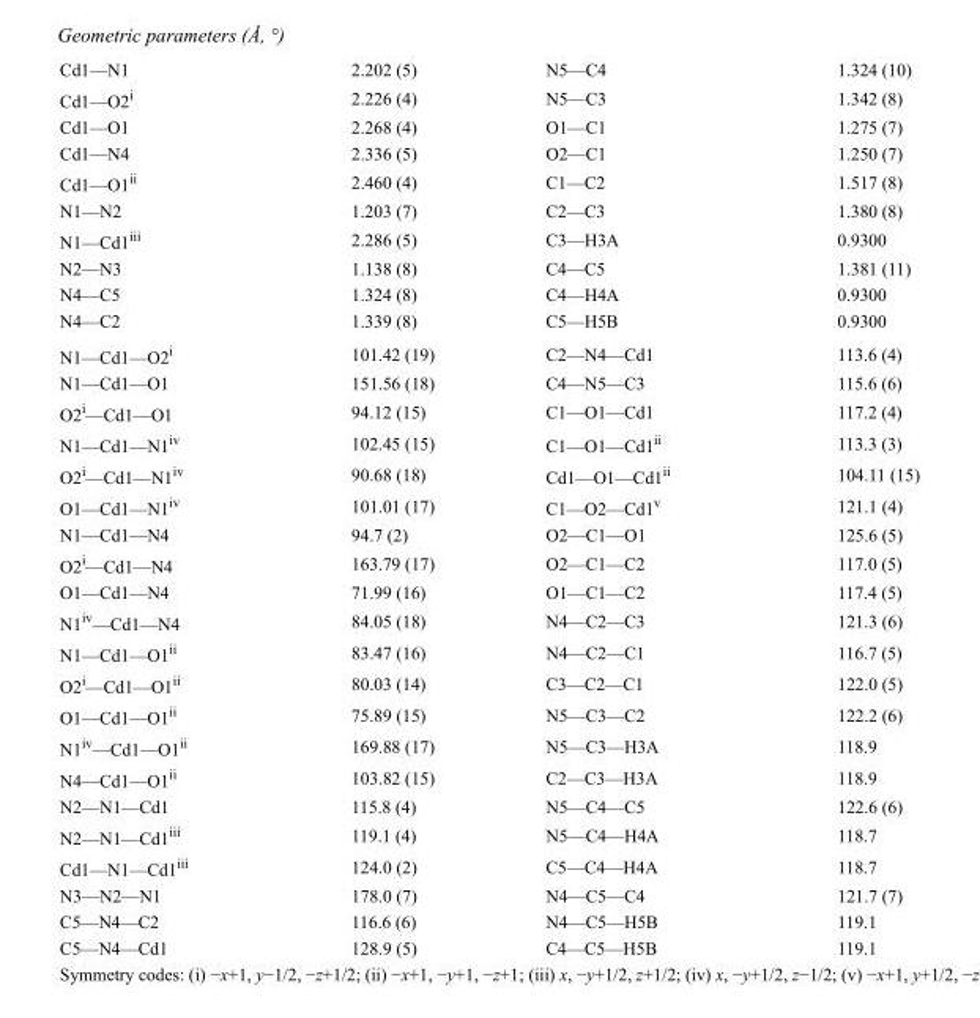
<table><tbody><tr><td>Cd1—N1</td><td>2.202 (5)</td><td>N5—C4</td><td>1.324 (10)</td></tr><tr><td>Cd1—O2<sup>i</sup></td><td>2.226 (4)</td><td>N5—C3</td><td>1.342 (8)</td></tr><tr><td>Cd1—O1</td><td>2.268 (4)</td><td>O1—C1</td><td>1.275 (7)</td></tr><tr><td>Cd1—N4</td><td>2.336 (5)</td><td>O2—C1</td><td>1.250 (7)</td></tr><tr><td>Cd1—O1<sup>ii</sup></td><td>2.460 (4)</td><td>C1—C2</td><td>1.517 (8)</td></tr><tr><td>N1—N2</td><td>1.203 (7)</td><td>C2—C3</td><td>1.380 (8)</td></tr><tr><td>N1—Cd1<sup>iii</sup></td><td>2.286 (5)</td><td>C3—H3A</td><td>0.9300</td></tr><tr><td>N2—N3</td><td>1.138 (8)</td><td>C4—C5</td><td>1.381 (11)</td></tr><tr><td>N4—C5</td><td>1.324 (8)</td><td>C4—H4A</td><td>0.9300</td></tr><tr><td>N4—C2</td><td>1.339 (8)</td><td>C5—H5B</td><td>0.9300</td></tr><tr><td>N1—Cd1—O2<sup>i</sup></td><td>101.42 (19)</td><td>C2—N4—Cd1</td><td>113.6 (4)</td></tr><tr><td>N1—Cd1—O1</td><td>151.56 (18)</td><td>C4—N5—C3</td><td>115.6 (6)</td></tr><tr><td>O2<sup>i</sup>—Cd1—O1</td><td>94.12 (15)</td><td>C1—O1—Cd1</td><td>117.2 (4)</td></tr><tr><td>N1—Cd1—N1<sup>iv</sup></td><td>102.45 (15)</td><td>C1—O1—Cd1<sup>ii</sup></td><td>113.3 (3)</td></tr><tr><td>O2<sup>i</sup>—Cd1—N1<sup>iv</sup></td><td>90.68 (18)</td><td>Cd1—O1—Cd1<sup>ii</sup></td><td>104.11 (15)</td></tr><tr><td>O1—Cd1—N1<sup>iv</sup></td><td>101.01 (17)</td><td>C1—O2—Cd1<sup>v</sup></td><td>121.1 (4)</td></tr><tr><td>N1—Cd1—N4</td><td>94.7 (2)</td><td>O2—C1—O1</td><td>125.6 (5)</td></tr><tr><td>O2<sup>i</sup>—Cd1—N4</td><td>163.79 (17)</td><td>O2—C1—C2</td><td>117.0 (5)</td></tr><tr><td>O1—Cd1—N4</td><td>71.99 (16)</td><td>O1—C1—C2</td><td>117.4 (5)</td></tr><tr><td>N1<sup>iv</sup>—Cd1—N4</td><td>84.05 (18)</td><td>N4—C2—C3</td><td>121.3 (6)</td></tr><tr><td>N1—Cd1—O1<sup>ii</sup></td><td>83.47 (16)</td><td>N4—C2—C1</td><td>116.7 (5)</td></tr><tr><td>O2<sup>i</sup>—Cd1—O1<sup>ii</sup></td><td>80.03 (14)</td><td>C3—C2—C1</td><td>122.0 (5)</td></tr><tr><td>O1—Cd1—O1<sup>ii</sup></td><td>75.89 (15)</td><td>N5—C3—C2</td><td>122.2 (6)</td></tr><tr><td>N1<sup>iv</sup>—Cd1—O1<sup>ii</sup></td><td>169.88 (17)</td><td>N5—C3—H3A</td><td>118.9</td></tr><tr><td>N4—Cd1—O1<sup>ii</sup></td><td>103.82 (15)</td><td>C2—C3—H3A</td><td>118.9</td></tr><tr><td>N2—N1—Cd1</td><td>115.8 (4)</td><td>N5—C4—C5</td><td>122.6 (6)</td></tr><tr><td>N2—N1—Cd1<sup>iii</sup></td><td>119.1 (4)</td><td>N5—C4—H4A</td><td>118.7</td></tr><tr><td>Cd1—N1—Cd1<sup>iii</sup></td><td>124.0 (2)</td><td>C5—C4—H4A</td><td>118.7</td></tr><tr><td>N3—N2—N1</td><td>178.0 (7)</td><td>N4—C5—C4</td><td>121.7 (7)</td></tr><tr><td>C5—N4—C2</td><td>116.6 (6)</td><td>N4—C5—H5B</td><td>119.1</td></tr><tr><td>C5—N4—Cd1</td><td>128.9 (5)</td><td>C4—C5—H5B</td><td>119.1</td></tr></tbody></table>